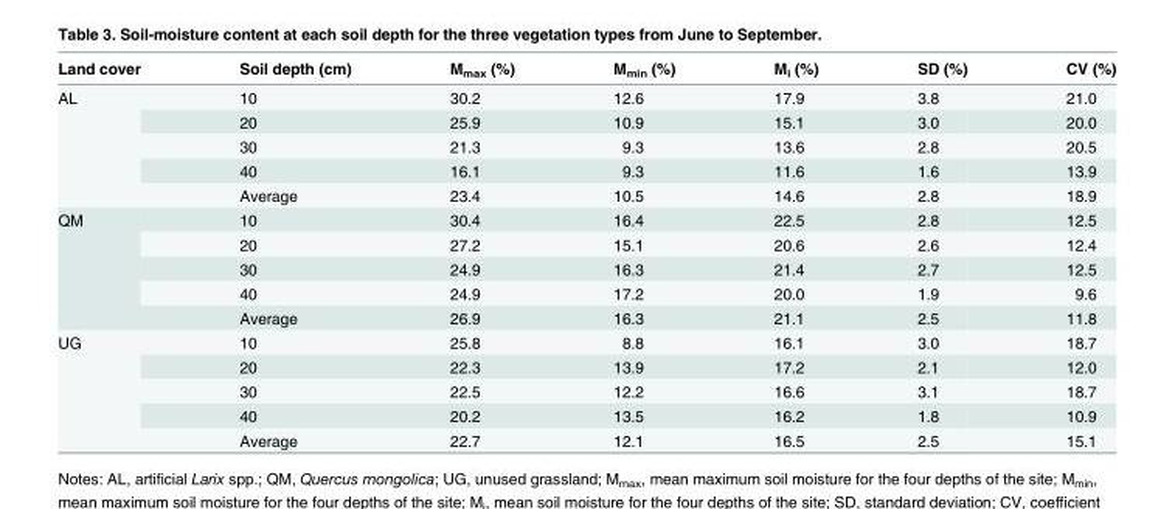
<table><thead><tr><td>Land cover</td><td>Soil depth (cm)</td><td>M<sub>max</sub> (%)</td><td>M<sub>min</sub> (%)</td><td>M<sub>i</sub> (%)</td><td>SD (%)</td><td>CV (%)</td></tr></thead><tbody><tr><td rowspan="5">AL</td><td>10</td><td>30.2</td><td>12.6</td><td>17.9</td><td>3.8</td><td>21.0</td></tr><tr><td>20</td><td>25.9</td><td>10.9</td><td>15.1</td><td>3.0</td><td>20.0</td></tr><tr><td>30</td><td>21.3</td><td>9.3</td><td>13.6</td><td>2.8</td><td>20.5</td></tr><tr><td>40</td><td>16.1</td><td>9.3</td><td>11.6</td><td>1.6</td><td>13.9</td></tr><tr><td>Average</td><td>23.4</td><td>10.5</td><td>14.6</td><td>2.8</td><td>18.9</td></tr><tr><td rowspan="5">QM</td><td>10</td><td>30.4</td><td>16.4</td><td>22.5</td><td>2.8</td><td>12.5</td></tr><tr><td>20</td><td>27.2</td><td>15.1</td><td>20.6</td><td>2.6</td><td>12.4</td></tr><tr><td>30</td><td>24.9</td><td>16.3</td><td>21.4</td><td>2.7</td><td>12.5</td></tr><tr><td>40</td><td>24.9</td><td>17.2</td><td>20.0</td><td>1.9</td><td>9.6</td></tr><tr><td>Average</td><td>26.9</td><td>16.3</td><td>21.1</td><td>2.5</td><td>11.8</td></tr><tr><td rowspan="5">UG</td><td>10</td><td>25.8</td><td>8.8</td><td>16.1</td><td>3.0</td><td>18.7</td></tr><tr><td>20</td><td>22.3</td><td>13.9</td><td>17.2</td><td>2.1</td><td>12.0</td></tr><tr><td>30</td><td>22.5</td><td>12.2</td><td>16.6</td><td>3.1</td><td>18.7</td></tr><tr><td>40</td><td>20.2</td><td>13.5</td><td>16.2</td><td>1.8</td><td>10.9</td></tr><tr><td>Average</td><td>22.7</td><td>12.1</td><td>16.5</td><td>2.5</td><td>15.1</td></tr></tbody></table>